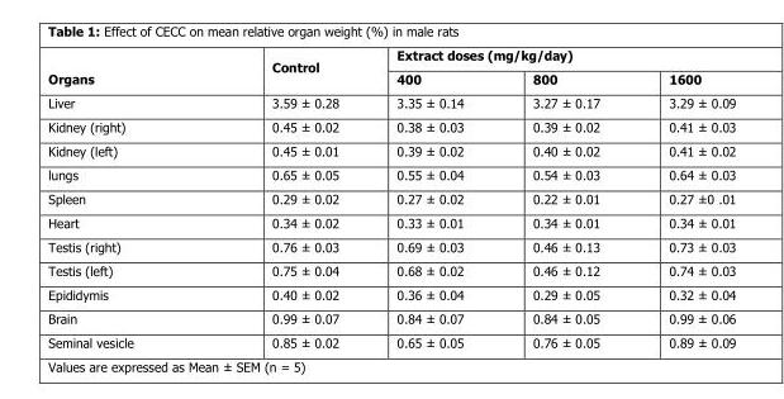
<table><thead><tr><td rowspan="2">Organs</td><td rowspan="2">Control</td><td colspan="3">Extract doses (mg/kg/day)</td></tr><tr><td>400</td><td>800</td><td>1600</td></tr></thead><tbody><tr><td>Liver</td><td>3.59 ± 0.28</td><td>3.35 ± 0.14</td><td>3.27 ± 0.17</td><td>3.29 ± 0.09</td></tr><tr><td>Kidney (right)</td><td>0.45 ± 0.02</td><td>0.38 ± 0.03</td><td>0.39 ± 0.02</td><td>0.41 ± 0.03</td></tr><tr><td>Kidney (left)</td><td>0.45 ± 0.01</td><td>0.39 ± 0.02</td><td>0.40 ± 0.02</td><td>0.41 ± 0.02</td></tr><tr><td>lungs</td><td>0.65 ± 0.05</td><td>0.55 ± 0.04</td><td>0.54 ± 0.03</td><td>0.64 ± 0.03</td></tr><tr><td>Spleen</td><td>0.29 ± 0.02</td><td>0.27 ± 0.02</td><td>0.22 ± 0.01</td><td>0.27 ±0 .01</td></tr><tr><td>Heart</td><td>0.34 ± 0.02</td><td>0.33 ± 0.01</td><td>0.34 ± 0.01</td><td>0.34 ± 0.01</td></tr><tr><td>Testis (right)</td><td>0.76 ± 0.03</td><td>0.69 ± 0.03</td><td>0.46 ± 0.13</td><td>0.73 ± 0.03</td></tr><tr><td>Testis (left)</td><td>0.75 ± 0.04</td><td>0.68 ± 0.02</td><td>0.46 ± 0.12</td><td>0.74 ± 0.03</td></tr><tr><td>Epididymis</td><td>0.40 ± 0.02</td><td>0.36 ± 0.04</td><td>0.29 ± 0.05</td><td>0.32 ± 0.04</td></tr><tr><td>Brain</td><td>0.99 ± 0.07</td><td>0.84 ± 0.07</td><td>0.84 ± 0.05</td><td>0.99 ± 0.06</td></tr><tr><td>Seminal vesicle</td><td>0.85 ± 0.02</td><td>0.65 ± 0.05</td><td>0.76 ± 0.05</td><td>0.89 ± 0.09</td></tr></tbody></table>